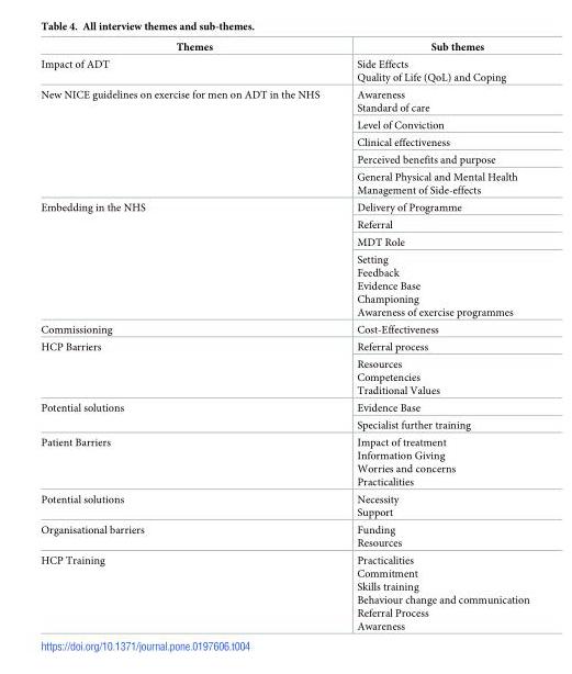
<table><thead><tr><td>Themes</td><td>Sub themes</td></tr></thead><tbody><tr><td>Impact of ADT</td><td>Side Effects Quality of Life (QoL) and Coping</td></tr><tr><td rowspan="5">New NICE guidelines on exercise for men on ADT in the NHS</td><td>Awareness Standard of care</td></tr><tr><td>Level of Conviction</td></tr><tr><td>Clinical effectiveness</td></tr><tr><td>Perceived benefits and purpose</td></tr><tr><td>General Physical and Mental Health Management of Side-effects</td></tr><tr><td rowspan="4">Embedding in the NHS</td><td>Delivery of Programme</td></tr><tr><td>Referral</td></tr><tr><td>MDT Role</td></tr><tr><td>Setting Feedback Evidence Base Championing Awareness of exercise programmes</td></tr><tr><td>Commissioning</td><td>Cost-Effectiveness</td></tr><tr><td rowspan="2">HCP Barriers</td><td>Referral process</td></tr><tr><td>Resources Competencies Traditional Values</td></tr><tr><td rowspan="2">Potential solutions</td><td>Evidence Base</td></tr><tr><td>Specialist further training</td></tr><tr><td>Patient Barriers</td><td>Impact of treatment Information Giving Worries and concerns Practicalities</td></tr><tr><td>Potential solutions</td><td>Necessity Support</td></tr><tr><td>Organisational barriers</td><td>Funding Resources</td></tr><tr><td>HCP Training</td><td>Practicalities Commitment Skills training Behaviour change and communication Referral Process Awareness</td></tr></tbody></table>